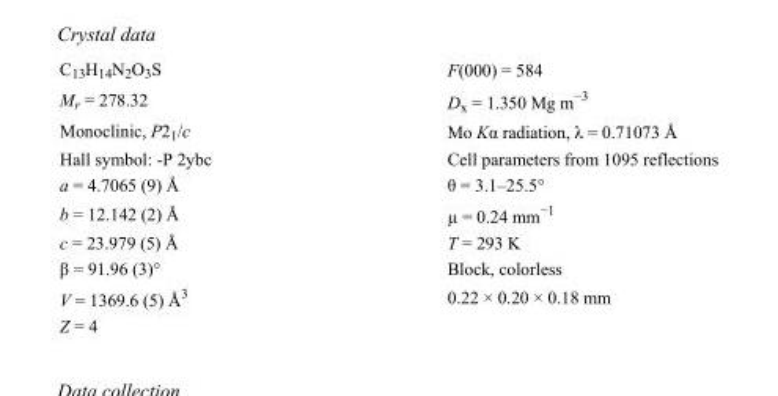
<table><tbody><tr><td>C<sub>13</sub>H<sub>14</sub>N<sub>2</sub>O<sub>3</sub>S</td><td>F(000) = 584</td></tr><tr><td>M<sub>r</sub> = 278.32</td><td>D<sub>x</sub> = 1.350 Mg m<sup>−3</sup></td></tr><tr><td>Monoclinic, P2<sub>1</sub>/c</td><td>Mo Kα radiation, λ = 0.71073 Å</td></tr><tr><td>Hall symbol: -P 2ybc</td><td>Cell parameters from 1095 reflections</td></tr><tr><td>a = 4.7065 (9) Å</td><td>θ = 3.1–25.5°</td></tr><tr><td>b = 12.142 (2) Å</td><td>µ = 0.24 mm<sup>−1</sup></td></tr><tr><td>c = 23.979 (5) Å</td><td>T = 293 K</td></tr><tr><td>β = 91.96 (3)°</td><td>Block, colorless</td></tr><tr><td>V = 1369.6 (5) Å<sup>3</sup></td><td>0.22 × 0.20 × 0.18 mm</td></tr><tr><td>Z = 4</td><td></td></tr></tbody></table>